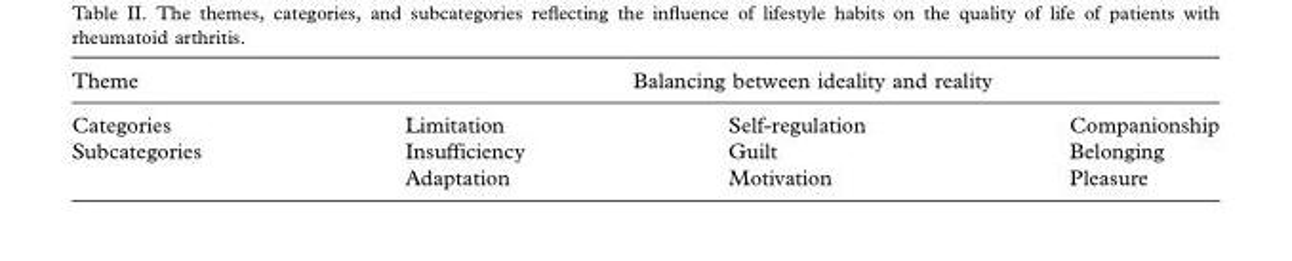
<table><thead><tr><td rowspan="2">Theme Categories</td><td colspan="3">Balancing between ideality and reality</td></tr><tr><td>Limitation</td><td>Self-regulation</td><td>Companionship</td></tr></thead><tbody><tr><td rowspan="2">Subcategories</td><td>Insufficiency</td><td>Guilt</td><td>Belonging</td></tr><tr><td>Adaptation</td><td>Motivation</td><td>Pleasure</td></tr></tbody></table>